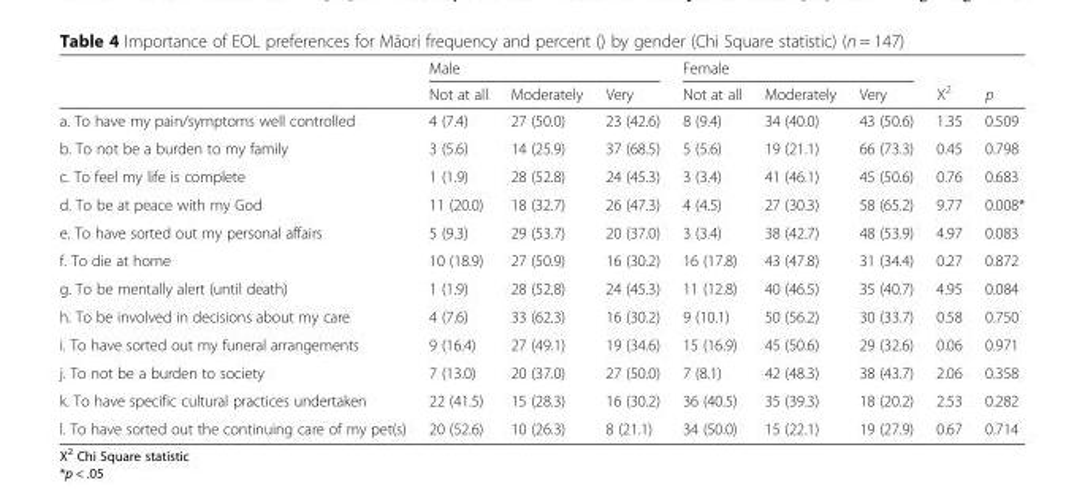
<table><thead><tr><td rowspan="2"></td><td colspan="3">Male</td><td colspan="3">Female</td><td rowspan="2">X<sup>2</sup></td><td rowspan="2">p</td></tr><tr><td>Not at all</td><td>Moderately</td><td>Very</td><td>Not at all</td><td>Moderately</td><td>Very</td></tr></thead><tbody><tr><td>a. To have my pain/symptoms well controlled</td><td>4 (7.4)</td><td>27 (50.0)</td><td>23 (42.6)</td><td>8 (9.4)</td><td>34 (40.0)</td><td>43 (50.6)</td><td>1.35</td><td>0.509</td></tr><tr><td>b. To not be a burden to my family</td><td>3 (5.6)</td><td>14 (25.9)</td><td>37 (68.5)</td><td>5 (5.6)</td><td>19 (21.1)</td><td>66 (73.3)</td><td>0.45</td><td>0.798</td></tr><tr><td>c. To feel my life is complete</td><td>1 (1.9)</td><td>28 (52.8)</td><td>24 (45.3)</td><td>3 (3.4)</td><td>41 (46.1)</td><td>45 (50.6)</td><td>0.76</td><td>0.683</td></tr><tr><td>d. To be at peace with my God</td><td>11 (20.0)</td><td>18 (32.7)</td><td>26 (47.3)</td><td>4 (4.5)</td><td>27 (30.3)</td><td>58 (65.2)</td><td>9.77</td><td>0.008*</td></tr><tr><td>e. To have sorted out my personal affairs</td><td>5 (9.3)</td><td>29 (53.7)</td><td>20 (37.0)</td><td>3 (3.4)</td><td>38 (42.7)</td><td>48 (53.9)</td><td>4.97</td><td>0.083</td></tr><tr><td>f. To die at home</td><td>10 (18.9)</td><td>27 (50.9)</td><td>16 (30.2)</td><td>16 (17.8)</td><td>43 (47.8)</td><td>31 (34.4)</td><td>0.27</td><td>0.872</td></tr><tr><td>g. To be mentally alert (until death)</td><td>1 (1.9)</td><td>28 (52.8)</td><td>24 (45.3)</td><td>11 (12.8)</td><td>40 (46.5)</td><td>35 (40.7)</td><td>4.95</td><td>0.084</td></tr><tr><td>h. To be involved in decisions about my care</td><td>4 (7.6)</td><td>33 (62.3)</td><td>16 (30.2)</td><td>9 (10.1)</td><td>50 (56.2)</td><td>30 (33.7)</td><td>0.58</td><td>0.750</td></tr><tr><td>i. To have sorted out my funeral arrangements</td><td>9 (16.4)</td><td>27 (49.1)</td><td>19 (34.6)</td><td>15 (16.9)</td><td>45 (50.6)</td><td>29 (32.6)</td><td>0.06</td><td>0.971</td></tr><tr><td>j. To not be a burden to society</td><td>7 (13.0)</td><td>20 (37.0)</td><td>27 (50.0)</td><td>7 (8.1)</td><td>42 (48.3)</td><td>38 (43.7)</td><td>2.06</td><td>0.358</td></tr><tr><td>k. To have specific cultural practices undertaken</td><td>22 (41.5)</td><td>15 (28.3)</td><td>16 (30.2)</td><td>36 (40.5)</td><td>35 (39.3)</td><td>18 (20.2)</td><td>2.53</td><td>0.282</td></tr><tr><td>l. To have sorted out the continuing care of my pet(s)</td><td>20 (52.6)</td><td>10 (26.3)</td><td>8 (21.1)</td><td>34 (50.0)</td><td>15 (22.1)</td><td>19 (27.9)</td><td>0.67</td><td>0.714</td></tr></tbody></table>